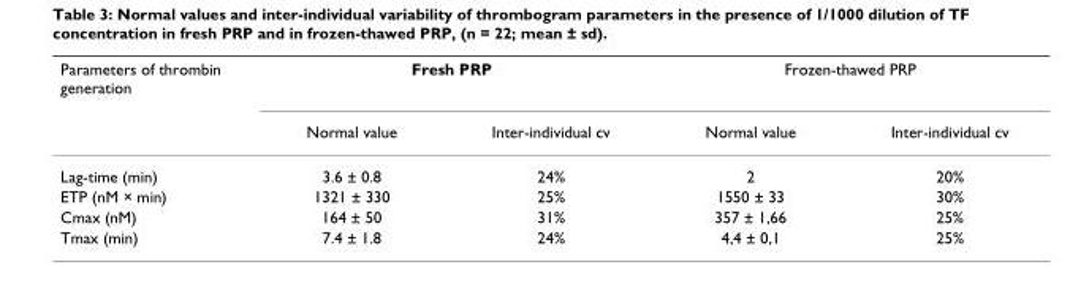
<table><thead><tr><td rowspan="2">Parameters of thrombin generation</td><td colspan="2">Fresh PRP</td><td colspan="2">Frozen-thawed PRP</td></tr><tr><td>Normal value</td><td>Inter-individual cv</td><td>Normal value</td><td>Inter-individual cv</td></tr></thead><tbody><tr><td>Lag-time (min)</td><td>3.6 ± 0.8</td><td>24%</td><td>2</td><td>20%</td></tr><tr><td>ETP (nM × min)</td><td>1321 ± 330</td><td>25%</td><td>1550 ± 33</td><td>30%</td></tr><tr><td>Cmax (nM)</td><td>164 ± 50</td><td>31%</td><td>357 ± 1,66</td><td>25%</td></tr><tr><td>Tmax (min)</td><td>7.4 ± 1.8</td><td>24%</td><td>4,4 ± 0,1</td><td>25%</td></tr></tbody></table>